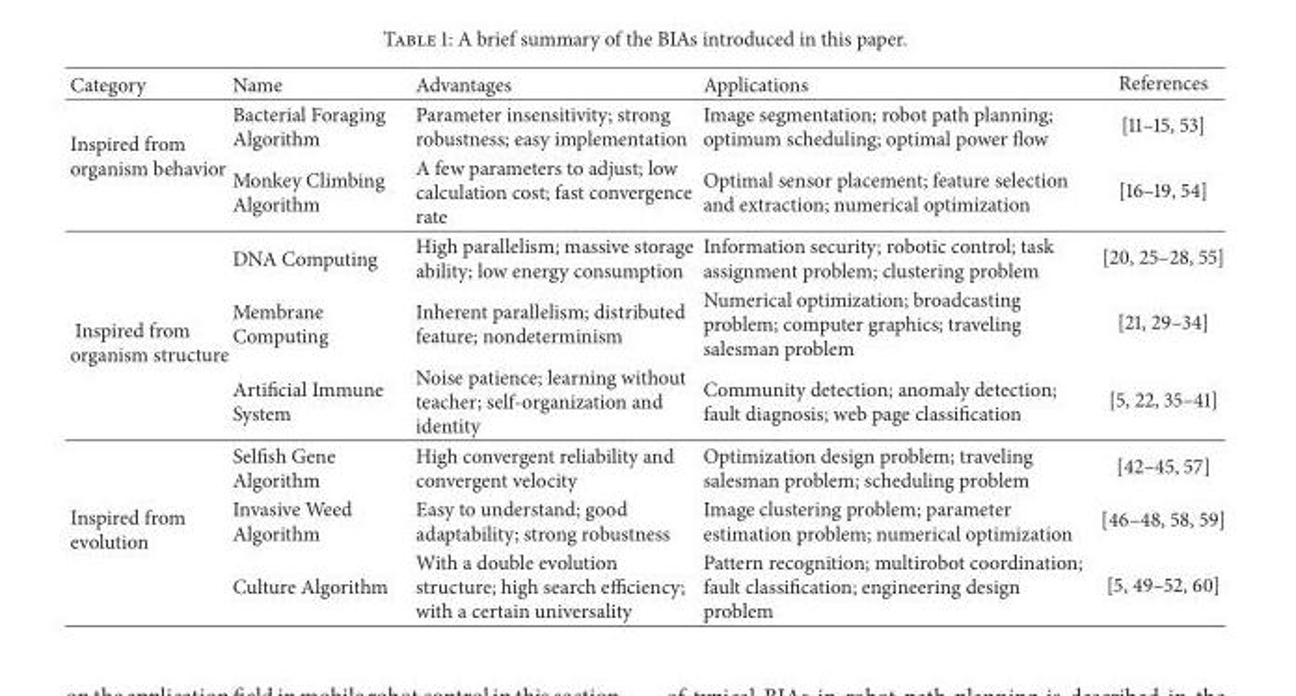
<table><thead><tr><td>Category</td><td>Name</td><td>Advantages</td><td>Applications</td><td>References</td></tr></thead><tbody><tr><td rowspan="2">Inspired from organism behavior</td><td>Bacterial Foraging Algorithm</td><td>Parameter insensitivity; strong robustness; easy implementation</td><td>Image segmentation; robot path planning; optimum scheduling; optimal power flow</td><td>[11–15, 53]</td></tr><tr><td>Monkey Climbing Algorithm</td><td>A few parameters to adjust; low calculation cost; fast convergence rate</td><td>Optimal sensor placement; feature selection and extraction; numerical optimization</td><td>[16–19, 54]</td></tr><tr><td rowspan="3">Inspired from organism structure</td><td>DNA Computing</td><td>High parallelism; massive storage ability; low energy consumption</td><td>Information security; robotic control; task assignment problem; clustering problem</td><td>[20, 25–28, 55]</td></tr><tr><td>Membrane Computing</td><td>Inherent parallelism; distributed feature; nondeterminism</td><td>Numerical optimization; broadcasting problem; computer graphics; traveling salesman problem</td><td>[21, 29–34]</td></tr><tr><td>Artificial Immune System</td><td>Noise patience; learning without teacher; self-organization and identity</td><td>Community detection; anomaly detection; fault diagnosis; web page classification</td><td>[5, 22, 35–41]</td></tr><tr><td rowspan="3">Inspired from evolution</td><td>Selfish Gene Algorithm</td><td>High convergent reliability and convergent velocity</td><td>Optimization design problem; traveling salesman problem; scheduling problem</td><td>[42–45, 57]</td></tr><tr><td>Invasive Weed Algorithm</td><td>Easy to understand; good adaptability; strong robustness</td><td>Image clustering problem; parameter estimation problem; numerical optimization</td><td>[46–48, 58, 59]</td></tr><tr><td>Culture Algorithm</td><td>With a double evolution structure; high search efficiency; with a certain universality</td><td>Pattern recognition; multirobot coordination; fault classification; engineering design problem</td><td>[5, 49–52, 60]</td></tr></tbody></table>